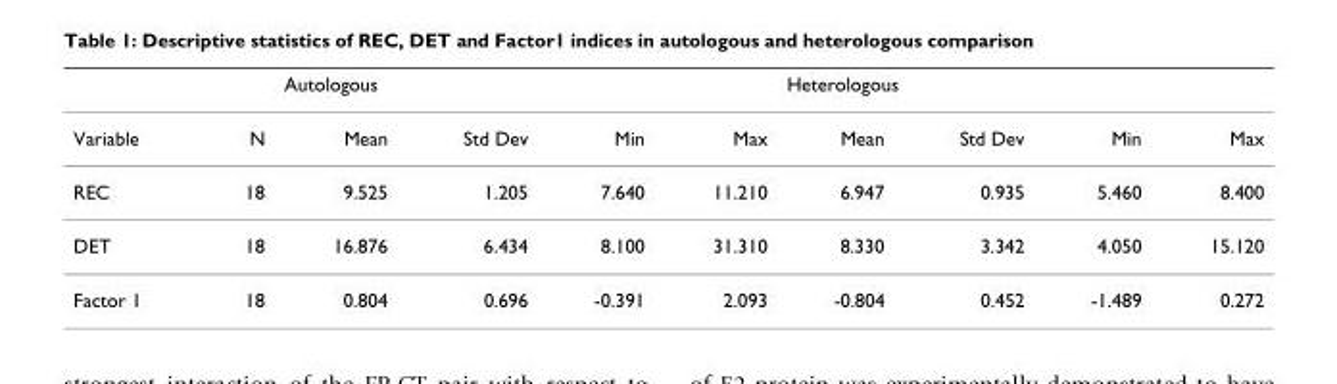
<table><thead><tr><td rowspan="2">Variable</td><td rowspan="2">N</td><td colspan="4">Autologous</td><td colspan="4">Heterologous</td></tr><tr><td>Mean</td><td>Std Dev</td><td>Min</td><td>Max</td><td>Mean</td><td>Std Dev</td><td>Min</td><td>Max</td></tr></thead><tbody><tr><td>REC</td><td>18</td><td>9.525</td><td>1.205</td><td>7.640</td><td>11.210</td><td>6.947</td><td>0.935</td><td>5.460</td><td>8.400</td></tr><tr><td>DET</td><td>18</td><td>16.876</td><td>6.434</td><td>8.100</td><td>31.310</td><td>8.330</td><td>3.342</td><td>4.050</td><td>15.120</td></tr><tr><td>Factor 1</td><td>18</td><td>0.804</td><td>0.696</td><td>-0.391</td><td>2.093</td><td>-0.804</td><td>0.452</td><td>-1.489</td><td>0.272</td></tr></tbody></table>